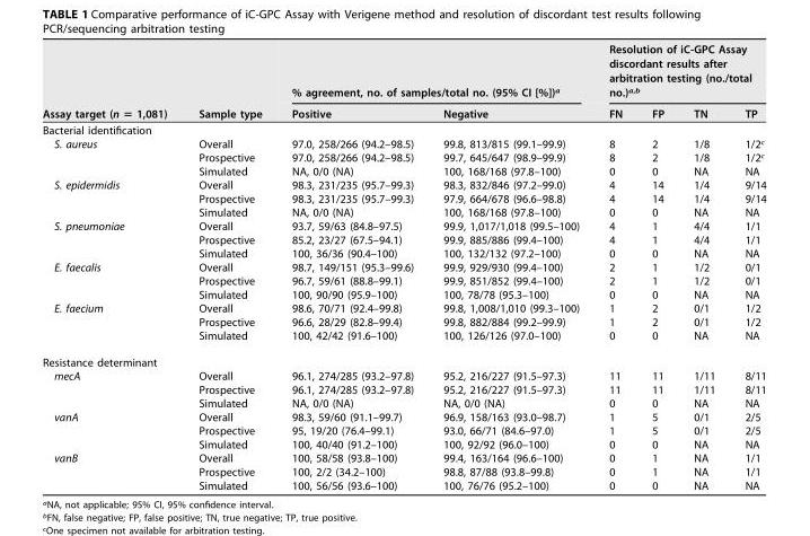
<table><thead><tr><td rowspan="2">Assay target (n = 1,081)</td><td rowspan="2">Sample type</td><td colspan="2">% agreement, no. of samples/total no. (95% CI [%])<sup>a</sup></td><td colspan="4">Resolution of iC-GPC Assay discordant results after arbitration testing (no./total no.)<sup>a,b</sup></td></tr><tr><td>Positive</td><td>Negative</td><td>FN</td><td>FP</td><td>TN</td><td>TP</td></tr></thead><tbody><tr><td colspan="8">Bacterial identification</td></tr><tr><td rowspan="3">S. aureus</td><td>Overall</td><td>97.0, 258/266 (94.2–98.5)</td><td>99.8, 813/815 (99.1–99.9)</td><td>8</td><td>2</td><td>1/8</td><td>1/2<sup>c</sup></td></tr><tr><td>Prospective</td><td>97.0, 258/266 (94.2–98.5)</td><td>99.7, 645/647 (98.9–99.9)</td><td>8</td><td>2</td><td>1/8</td><td>1/2<sup>c</sup></td></tr><tr><td>Simulated</td><td>NA, 0/0 (NA)</td><td>100, 168/168 (97.8–100)</td><td>0</td><td>0</td><td>NA</td><td>NA</td></tr><tr><td rowspan="3">S. epidermidis</td><td>Overall</td><td>98.3, 231/235 (95.7–99.3)</td><td>98.3, 832/846 (97.2–99.0)</td><td>4</td><td>14</td><td>1/4</td><td>9/14</td></tr><tr><td>Prospective</td><td>98.3, 231/235 (95.7–99.3)</td><td>97.9, 664/678 (96.6–98.8)</td><td>4</td><td>14</td><td>1/4</td><td>9/14</td></tr><tr><td>Simulated</td><td>NA, 0/0 (NA)</td><td>100, 168/168 (97.8–100)</td><td>0</td><td>0</td><td>NA</td><td>NA</td></tr><tr><td rowspan="3">S. pneumoniae</td><td>Overall</td><td>93.7, 59/63 (84.8–97.5)</td><td>99.9, 1,017/1,018 (99.5–100)</td><td>4</td><td>1</td><td>4/4</td><td>1/1</td></tr><tr><td>Prospective</td><td>85.2, 23/27 (67.5–94.1)</td><td>99.9, 885/886 (99.4–100)</td><td>4</td><td>1</td><td>4/4</td><td>1/1</td></tr><tr><td>Simulated</td><td>100, 36/36 (90.4–100)</td><td>100, 132/132 (97.2–100)</td><td>0</td><td>0</td><td>NA</td><td>NA</td></tr><tr><td rowspan="3">E. faecalis</td><td>Overall</td><td>98.7, 149/151 (95.3–99.6)</td><td>99.9, 929/930 (99.4–100)</td><td>2</td><td>1</td><td>1/2</td><td>0/1</td></tr><tr><td>Prospective</td><td>96.7, 59/61 (88.8–99.1)</td><td>99.9, 851/852 (99.4–100)</td><td>2</td><td>1</td><td>1/2</td><td>0/1</td></tr><tr><td>Simulated</td><td>100, 90/90 (95.9–100)</td><td>100, 78/78 (95.3–100)</td><td>0</td><td>0</td><td>NA</td><td>NA</td></tr><tr><td rowspan="3">E. faecium</td><td>Overall</td><td>98.6, 70/71 (92.4–99.8)</td><td>99.8, 1,008/1,010 (99.3–100)</td><td>1</td><td>2</td><td>0/1</td><td>1/2</td></tr><tr><td>Prospective</td><td>96.6, 28/29 (82.8–99.4)</td><td>99.8, 882/884 (99.2–99.9)</td><td>1</td><td>2</td><td>0/1</td><td>1/2</td></tr><tr><td>Simulated</td><td>100, 42/42 (91.6–100)</td><td>100, 126/126 (97.0–100)</td><td>0</td><td>0</td><td>NA</td><td>NA</td></tr><tr><td colspan="8">Resistance determinant</td></tr><tr><td rowspan="3">mecA</td><td>Overall</td><td>96.1, 274/285 (93.2–97.8)</td><td>95.2, 216/227 (91.5–97.3)</td><td>11</td><td>11</td><td>1/11</td><td>8/11</td></tr><tr><td>Prospective</td><td>96.1, 274/285 (93.2–97.8)</td><td>95.2, 216/227 (91.5–97.3)</td><td>11</td><td>11</td><td>1/11</td><td>8/11</td></tr><tr><td>Simulated</td><td>NA, 0/0 (NA)</td><td>NA, 0/0 (NA)</td><td>0</td><td>0</td><td>NA</td><td>NA</td></tr><tr><td rowspan="3">vanA</td><td>Overall</td><td>98.3, 59/60 (91.1–99.7)</td><td>96.9, 158/163 (93.0–98.7)</td><td>1</td><td>5</td><td>0/1</td><td>2/5</td></tr><tr><td>Prospective</td><td>95, 19/20 (76.4–99.1)</td><td>93.0, 66/71 (84.6–97.0)</td><td>1</td><td>5</td><td>0/1</td><td>2/5</td></tr><tr><td>Simulated</td><td>100, 40/40 (91.2–100)</td><td>100, 92/92 (96.0–100)</td><td>0</td><td>0</td><td>NA</td><td>NA</td></tr><tr><td rowspan="3">vanB</td><td>Overall</td><td>100, 58/58 (93.8–100)</td><td>99.4, 163/164 (96.6–100)</td><td>0</td><td>1</td><td>NA</td><td>1/1</td></tr><tr><td>Prospective</td><td>100, 2/2 (34.2–100)</td><td>98.8, 87/88 (93.8–99.8)</td><td>0</td><td>1</td><td>NA</td><td>1/1</td></tr><tr><td>Simulated</td><td>100, 56/56 (93.6–100)</td><td>100, 76/76 (95.2–100)</td><td>0</td><td>0</td><td>NA</td><td>NA</td></tr></tbody></table>